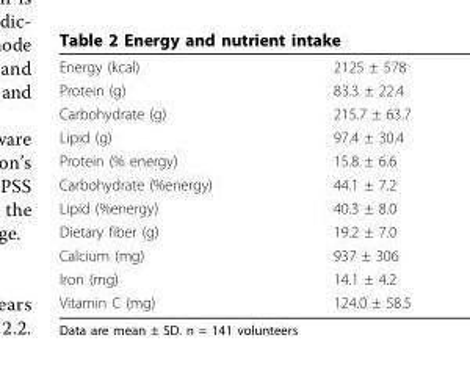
<table><tbody><tr><td>Energy (kcal)</td><td>2125 ± 578</td></tr><tr><td>Protein (g)</td><td>83.3 ± 22.4</td></tr><tr><td>Carbohydrate (g)</td><td>215.7 ± 63.7</td></tr><tr><td>Lipid (g)</td><td>97.4 ± 30.4</td></tr><tr><td>Protein (% energy)</td><td>15.8 ± 6.6</td></tr><tr><td>Carbohydrate (%energy)</td><td>44.1 ± 7.2</td></tr><tr><td>Lipid (%energy)</td><td>40.3 ± 8.0</td></tr><tr><td>Dietary fiber (g)</td><td>19.2 ± 7.0</td></tr><tr><td>Calcium (mg)</td><td>937 ± 306</td></tr><tr><td>Iron (mg)</td><td>14.1 ± 4.2</td></tr><tr><td>Vitamin C (mg)</td><td>124.0 ± 58.5</td></tr></tbody></table>